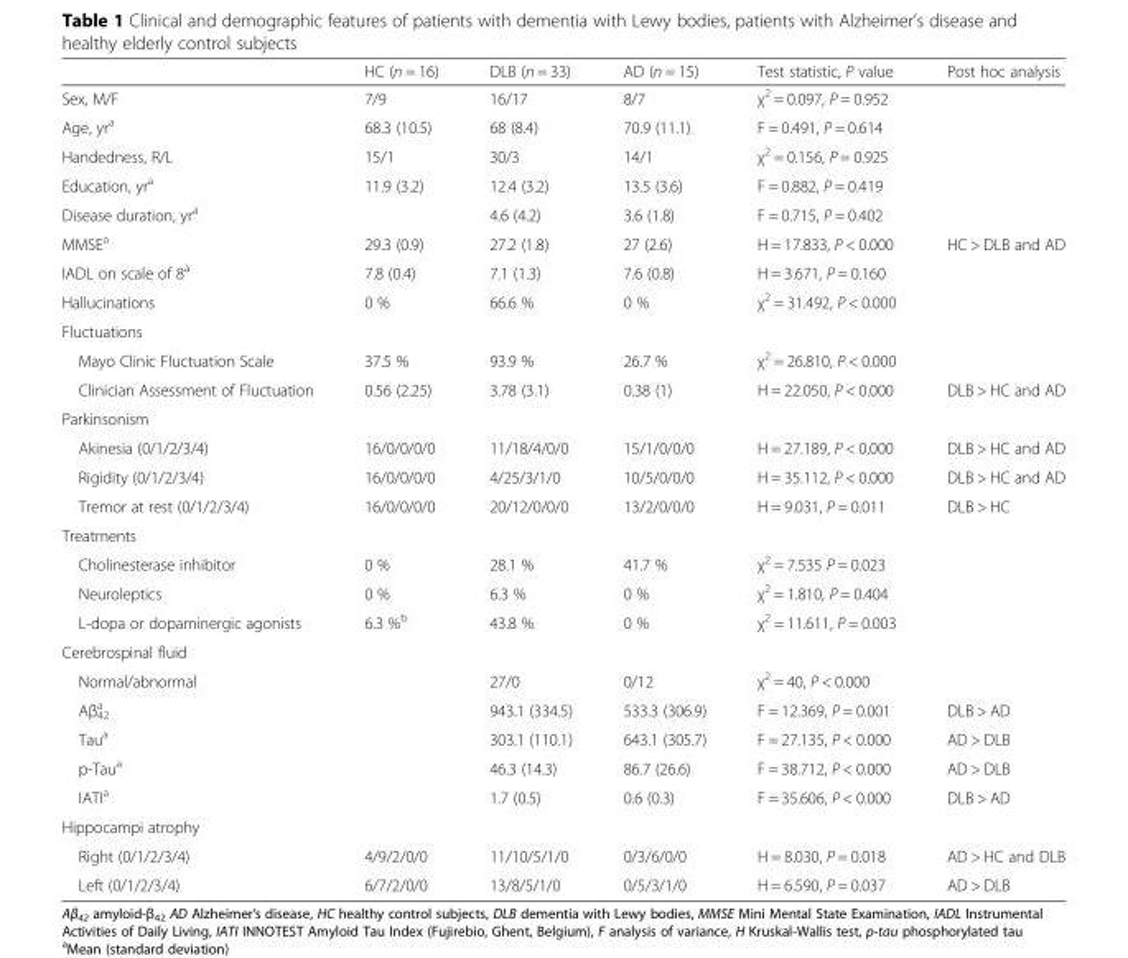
<table><thead><tr><td></td><td>HC (n = 16)</td><td>DLB (n = 33)</td><td>AD (n = 15)</td><td>Test statistic, P value</td><td>Post hoc analysis</td></tr></thead><tbody><tr><td>Sex, M/F</td><td>7/9</td><td>16/17</td><td>8/7</td><td>χ<sup>2</sup> = 0.097, P = 0.952</td><td></td></tr><tr><td>Age, yr<sup>a</sup></td><td>68.3 (10.5)</td><td>68 (8.4)</td><td>70.9 (11.1)</td><td>F = 0.491, P = 0.614</td><td></td></tr><tr><td>Handedness, R/L</td><td>15/1</td><td>30/3</td><td>14/1</td><td>χ<sup>2</sup> = 0.156, P = 0.925</td><td></td></tr><tr><td>Education, yr<sup>a</sup></td><td>11.9 (3.2)</td><td>12.4 (3.2)</td><td>13.5 (3.6)</td><td>F = 0.882, P = 0.419</td><td></td></tr><tr><td>Disease duration, yr<sup>a</sup></td><td></td><td>4.6 (4.2)</td><td>3.6 (1.8)</td><td>F = 0.715, P = 0.402</td><td></td></tr><tr><td>MMSE<sup>a</sup></td><td>29.3 (0.9)</td><td>27.2 (1.8)</td><td>27 (2.6)</td><td>H = 17.833, P &lt; 0.000</td><td>HC &gt; DLB and AD</td></tr><tr><td>IADL on scale of 8<sup>a</sup></td><td>7.8 (0.4)</td><td>7.1 (1.3)</td><td>7.6 (0.8)</td><td>H = 3.671, P = 0.160</td><td></td></tr><tr><td>Hallucinations</td><td>0 %</td><td>66.6 %</td><td>0 %</td><td>χ<sup>2</sup> = 31.492, P &lt; 0.000</td><td></td></tr><tr><td colspan="6">Fluctuations</td></tr><tr><td>Mayo Clinic Fluctuation Scale</td><td>37.5 %</td><td>93.9 %</td><td>26.7 %</td><td>χ<sup>2</sup> = 26.810, P &lt; 0.000</td><td></td></tr><tr><td>Clinician Assessment of Fluctuation</td><td>0.56 (2.25)</td><td>3.78 (3.1)</td><td>0.38 (1)</td><td>H = 22.050, P &lt; 0.000</td><td>DLB &gt; HC and AD</td></tr><tr><td colspan="6">Parkinsonism</td></tr><tr><td>Akinesia (0/1/2/3/4)</td><td>16/0/0/0/0</td><td>11/18/4/0/0</td><td>15/1/0/0/0</td><td>H = 27.189, P &lt; 0.000</td><td>DLB &gt; HC and AD</td></tr><tr><td>Rigidity (0/1/2/3/4)</td><td>16/0/0/0/0</td><td>4/25/3/1/0</td><td>10/5/0/0/0</td><td>H = 35.112, P &lt; 0.000</td><td>DLB &gt; HC and AD</td></tr><tr><td>Tremor at rest (0/1/2/3/4)</td><td>16/0/0/0/0</td><td>20/12/0/0/0</td><td>13/2/0/0/0</td><td>H = 9.031, P = 0.011</td><td>DLB &gt; HC</td></tr><tr><td colspan="6">Treatments</td></tr><tr><td>Cholinesterase inhibitor</td><td>0 %</td><td>28.1 %</td><td>41.7 %</td><td>χ<sup>2</sup> = 7.535 P = 0.023</td><td></td></tr><tr><td>Neuroleptics</td><td>0 %</td><td>6.3 %</td><td>0 %</td><td>χ<sup>2</sup> = 1.810, P = 0.404</td><td></td></tr><tr><td>L-dopa or dopaminergic agonists</td><td>6.3 %<sup>b</sup></td><td>43.8 %</td><td>0 %</td><td>χ<sup>2</sup> = 11.611, P = 0.003</td><td></td></tr><tr><td colspan="6">Cerebrospinal fluid</td></tr><tr><td>Normal/abnormal</td><td></td><td>27/0</td><td>0/12</td><td>χ<sup>2</sup> = 40, P &lt; 0.000</td><td></td></tr><tr><td>Aβ<sub>42</sub> <sup>a</sup></td><td></td><td>943.1 (334.5)</td><td>533.3 (306.9)</td><td>F = 12.369, P = 0.001</td><td>DLB &gt; AD</td></tr><tr><td>Tau<sup>a</sup></td><td></td><td>303.1 (110.1)</td><td>643.1 (305.7)</td><td>F = 27.135, P &lt; 0.000</td><td>AD &gt; DLB</td></tr><tr><td>p-Tau<sup>a</sup></td><td></td><td>46.3 (14.3)</td><td>86.7 (26.6)</td><td>F = 38.712, P &lt; 0.000</td><td>AD &gt; DLB</td></tr><tr><td>IATI<sup>a</sup></td><td></td><td>1.7 (0.5)</td><td>0.6 (0.3)</td><td>F = 35.606, P &lt; 0.000</td><td>DLB &gt; AD</td></tr><tr><td colspan="6">Hippocampi atrophy</td></tr><tr><td>Right (0/1/2/3/4)</td><td>4/9/2/0/0</td><td>11/10/5/1/0</td><td>0/3/6/0/0</td><td>H = 8.030, P = 0.018</td><td>AD &gt; HC and DLB</td></tr><tr><td>Left (0/1/2/3/4)</td><td>6/7/2/0/0</td><td>13/8/5/1/0</td><td>0/5/3/1/0</td><td>H = 6.590, P = 0.037</td><td>AD &gt; DLB</td></tr></tbody></table>